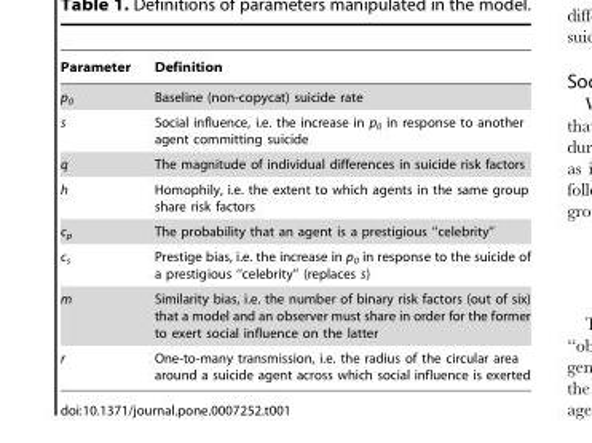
<table><thead><tr><td>Parameter</td><td>Definition</td></tr></thead><tbody><tr><td>p<sub>0</sub></td><td>Baseline (non-copycat) suicide rate</td></tr><tr><td>s</td><td>Social influence, i.e. the increase in p<sub>0</sub> in response to another agent committing suicide</td></tr><tr><td>q</td><td>The magnitude of individual differences in suicide risk factors</td></tr><tr><td>h</td><td>Homophily, i.e. the extent to which agents in the same group share risk factors</td></tr><tr><td>c<sub>p</sub></td><td>The probability that an agent is a prestigious ‘‘celebrity’’</td></tr><tr><td>c<sub>s</sub></td><td>Prestige bias, i.e. the increase in p0 in response to the suicide of a prestigious ‘‘celebrity’’ (replaces s)</td></tr><tr><td>m</td><td>Similarity bias, i.e. the number of binary risk factors (out of six) that a model and an observer must share in order for the former to exert social influence on the latter</td></tr><tr><td>r</td><td>One-to-many transmission, i.e. the radius of the circular area around a suicide agent across which social influence is exerted</td></tr></tbody></table>